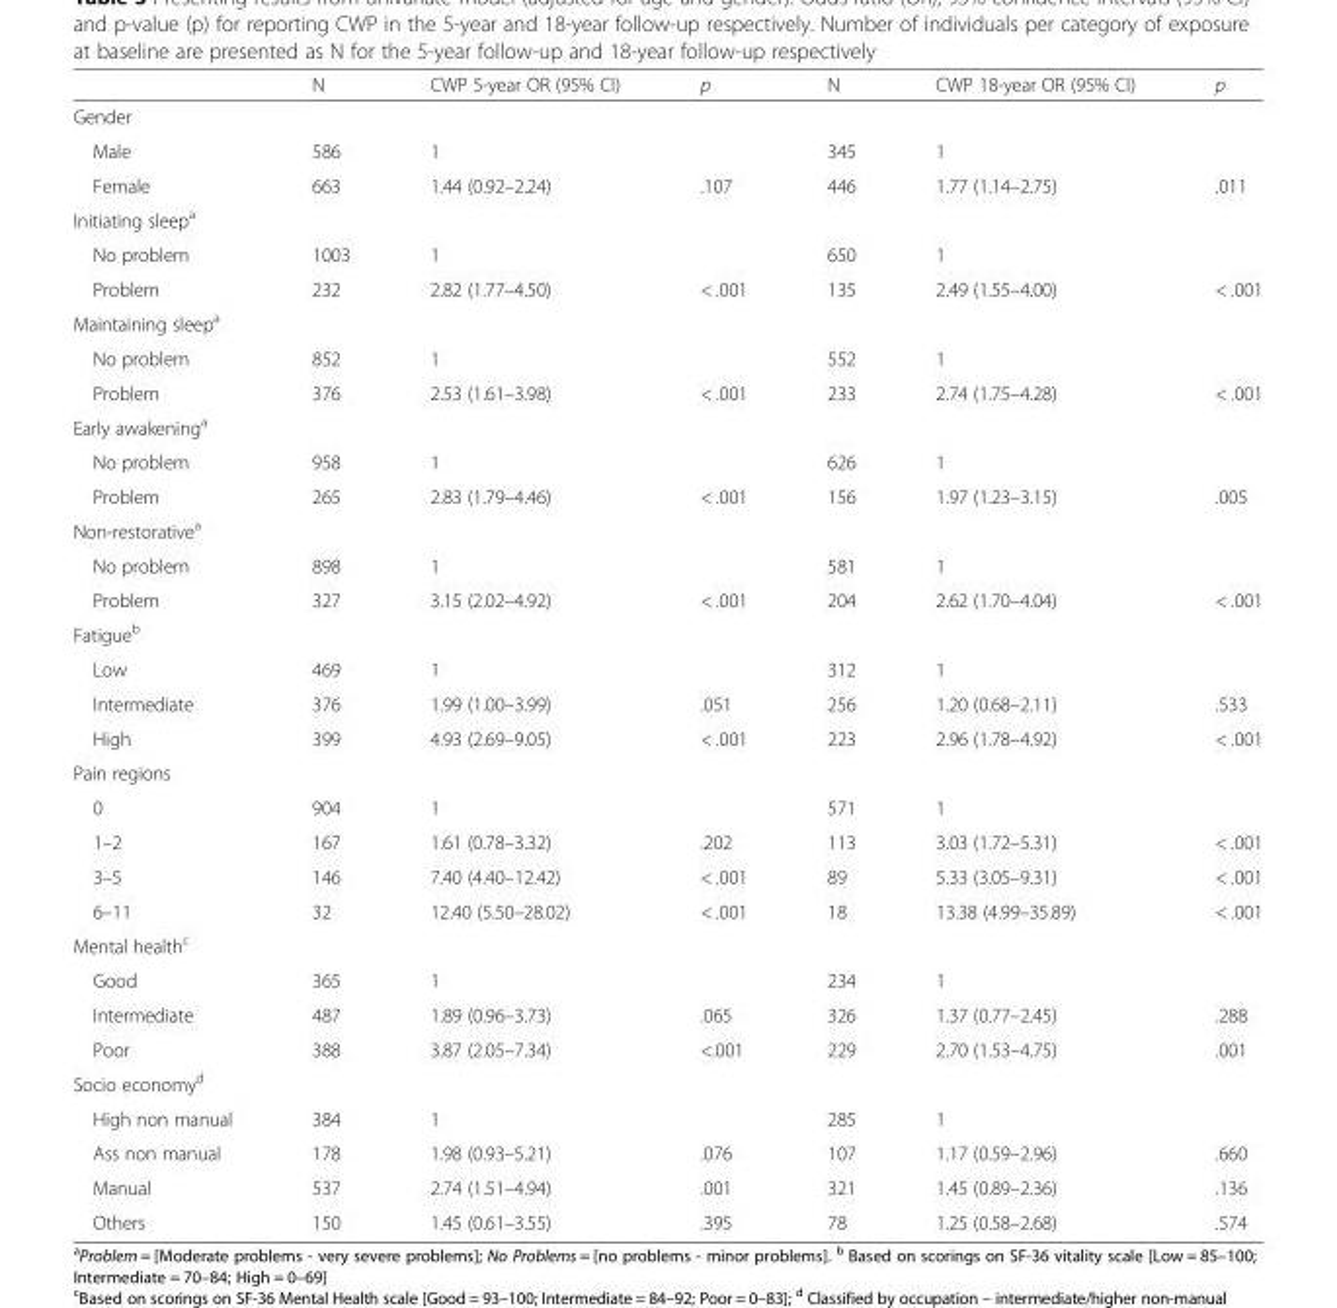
<table><thead><tr><td></td><td>N</td><td>CWP 5-year OR (95% CI)</td><td>p</td><td>N</td><td>CWP 18-year OR (95% CI)</td><td>p</td></tr></thead><tbody><tr><td colspan="7">Gender</td></tr><tr><td>Male</td><td>586</td><td>1</td><td></td><td>345</td><td>1</td><td></td></tr><tr><td>Female</td><td>663</td><td>1.44 (0.92–2.24)</td><td>.107</td><td>446</td><td>1.77 (1.14–2.75)</td><td>.011</td></tr><tr><td colspan="7">Initiating sleep<sup>a</sup></td></tr><tr><td>No problem</td><td>1003</td><td>1</td><td></td><td>650</td><td>1</td><td></td></tr><tr><td>Problem</td><td>232</td><td>2.82 (1.77–4.50)</td><td>&lt; .001</td><td>135</td><td>2.49 (1.55–4.00)</td><td>&lt; .001</td></tr><tr><td colspan="7">Maintaining sleep<sup>a</sup></td></tr><tr><td>No problem</td><td>852</td><td>1</td><td></td><td>552</td><td>1</td><td></td></tr><tr><td>Problem</td><td>376</td><td>2.53 (1.61–3.98)</td><td>&lt; .001</td><td>233</td><td>2.74 (1.75–4.28)</td><td>&lt; .001</td></tr><tr><td colspan="7">Early awakening<sup>a</sup></td></tr><tr><td>No problem</td><td>958</td><td>1</td><td></td><td>626</td><td>1</td><td></td></tr><tr><td>Problem</td><td>265</td><td>2.83 (1.79–4.46)</td><td>&lt; .001</td><td>156</td><td>1.97 (1.23–3.15)</td><td>.005</td></tr><tr><td colspan="7">Non-restorative<sup>a</sup></td></tr><tr><td>No problem</td><td>898</td><td>1</td><td></td><td>581</td><td>1</td><td></td></tr><tr><td>Problem</td><td>327</td><td>3.15 (2.02–4.92)</td><td>&lt; .001</td><td>204</td><td>2.62 (1.70–4.04)</td><td>&lt; .001</td></tr><tr><td colspan="7">Fatigue<sup>b</sup></td></tr><tr><td>Low</td><td>469</td><td>1</td><td></td><td>312</td><td>1</td><td></td></tr><tr><td>Intermediate</td><td>376</td><td>1.99 (1.00–3.99)</td><td>.051</td><td>256</td><td>1.20 (0.68–2.11)</td><td>.533</td></tr><tr><td>High</td><td>399</td><td>4.93 (2.69–9.05)</td><td>&lt; .001</td><td>223</td><td>2.96 (1.78–4.92)</td><td>&lt; .001</td></tr><tr><td colspan="7">Pain regions</td></tr><tr><td>0</td><td>904</td><td>1</td><td></td><td>571</td><td>1</td><td></td></tr><tr><td>1–2</td><td>167</td><td>1.61 (0.78–3.32)</td><td>.202</td><td>113</td><td>3.03 (1.72–5.31)</td><td>&lt; .001</td></tr><tr><td>3–5</td><td>146</td><td>7.40 (4.40–12.42)</td><td>&lt; .001</td><td>89</td><td>5.33 (3.05–9.31)</td><td>&lt; .001</td></tr><tr><td>6–11</td><td>32</td><td>12.40 (5.50–28.02)</td><td>&lt; .001</td><td>18</td><td>13.38 (4.99–35.89)</td><td>&lt; .001</td></tr><tr><td colspan="7">Mental health<sup>c</sup></td></tr><tr><td>Good</td><td>365</td><td>1</td><td></td><td>234</td><td>1</td><td></td></tr><tr><td>Intermediate</td><td>487</td><td>1.89 (0.96–3.73)</td><td>.065</td><td>326</td><td>1.37 (0.77–2.45)</td><td>.288</td></tr><tr><td>Poor</td><td>388</td><td>3.87 (2.05–7.34)</td><td>&lt;.001</td><td>229</td><td>2.70 (1.53–4.75)</td><td>.001</td></tr><tr><td colspan="7">Socio economy<sup>d</sup></td></tr><tr><td>High non manual</td><td>384</td><td>1</td><td></td><td>285</td><td>1</td><td></td></tr><tr><td>Ass non manual</td><td>178</td><td>1.98 (0.93–5.21)</td><td>.076</td><td>107</td><td>1.17 (0.59–2.96)</td><td>.660</td></tr><tr><td>Manual</td><td>537</td><td>2.74 (1.51–4.94)</td><td>.001</td><td>321</td><td>1.45 (0.89–2.36)</td><td>.136</td></tr><tr><td>Others</td><td>150</td><td>1.45 (0.61–3.55)</td><td>.395</td><td>78</td><td>1.25 (0.58–2.68)</td><td>.574</td></tr></tbody></table>